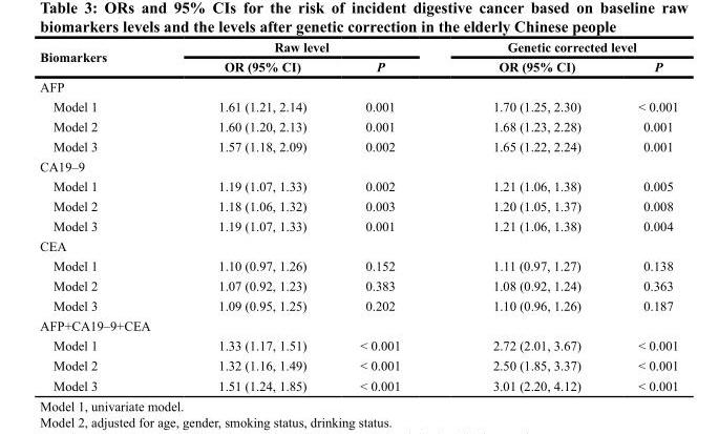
<table><thead><tr><td rowspan="2">Biomarkers</td><td colspan="2">Raw level</td><td colspan="2">Genetic corrected level</td></tr><tr><td>OR (95% CI)</td><td>P</td><td>OR (95% CI)</td><td>P</td></tr></thead><tbody><tr><td colspan="5">AFP</td></tr><tr><td>Model 1</td><td>1.61 (1.21, 2.14)</td><td>0.001</td><td>1.70 (1.25, 2.30)</td><td>&lt; 0.001</td></tr><tr><td>Model 2</td><td>1.60 (1.20, 2.13)</td><td>0.001</td><td>1.68 (1.23, 2.28)</td><td>0.001</td></tr><tr><td>Model 3</td><td>1.57 (1.18, 2.09)</td><td>0.002</td><td>1.65 (1.22, 2.24)</td><td>0.001</td></tr><tr><td colspan="5">CA19–9</td></tr><tr><td>Model 1</td><td>1.19 (1.07, 1.33)</td><td>0.002</td><td>1.21 (1.06, 1.38)</td><td>0.005</td></tr><tr><td>Model 2</td><td>1.18 (1.06, 1.32)</td><td>0.003</td><td>1.20 (1.05, 1.37)</td><td>0.008</td></tr><tr><td>Model 3</td><td>1.19 (1.07, 1.33)</td><td>0.001</td><td>1.21 (1.06, 1.38)</td><td>0.004</td></tr><tr><td colspan="5">CEA</td></tr><tr><td>Model 1</td><td>1.10 (0.97, 1.26)</td><td>0.152</td><td>1.11 (0.97, 1.27)</td><td>0.138</td></tr><tr><td>Model 2</td><td>1.07 (0.92, 1.23)</td><td>0.383</td><td>1.08 (0.92, 1.24)</td><td>0.363</td></tr><tr><td>Model 3</td><td>1.09 (0.95, 1.25)</td><td>0.202</td><td>1.10 (0.96, 1.26)</td><td>0.187</td></tr><tr><td colspan="5">AFP+CA19–9+CEA</td></tr><tr><td>Model 1</td><td>1.33 (1.17, 1.51)</td><td>&lt; 0.001</td><td>2.72 (2.01, 3.67)</td><td>&lt; 0.001</td></tr><tr><td>Model 2</td><td>1.32 (1.16, 1.49)</td><td>&lt; 0.001</td><td>2.50 (1.85, 3.37)</td><td>&lt; 0.001</td></tr><tr><td>Model 3</td><td>1.51 (1.24, 1.85)</td><td>&lt; 0.001</td><td>3.01 (2.20, 4.12)</td><td>&lt; 0.001</td></tr></tbody></table>